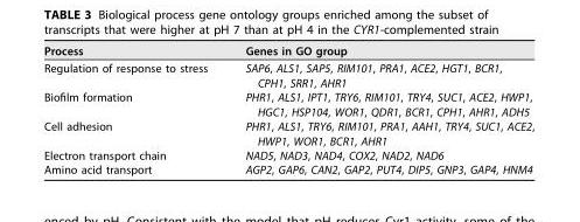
<table><thead><tr><td>Process</td><td>Genes in GO group</td></tr></thead><tbody><tr><td>Regulation of response to stress</td><td>SAP6, ALS1, SAP5, RIM101, PRA1, ACE2, HGT1, BCR1, CPH1, SRR1, AHR1</td></tr><tr><td>Biofilm formation</td><td>PHR1, ALS1, IPT1, TRY6, RIM101, TRY4, SUC1, ACE2, HWP1, HGC1, HSP104, WOR1, QDR1, BCR1, CPH1, AHR1, ADH5</td></tr><tr><td>Cell adhesion</td><td>PHR1, ALS1, TRY6, RIM101, PRA1, AAH1, TRY4, SUC1, ACE2, HWP1, WOR1, BCR1, AHR1</td></tr><tr><td>Electron transport chain</td><td>NAD5, NAD3, NAD4, COX2, NAD2, NAD6</td></tr><tr><td>Amino acid transport</td><td>AGP2, GAP6, CAN2, GAP2, PUT4, DIP5, GNP3, GAP4, HNM4</td></tr></tbody></table>